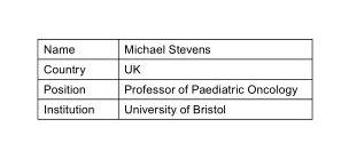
<table><tbody><tr><td>Name</td><td>Michael Stevens</td></tr><tr><td>Country</td><td>UK</td></tr><tr><td>Position</td><td>Professor of Paediatric Oncology</td></tr><tr><td>Institution</td><td>University of Bristol</td></tr></tbody></table>